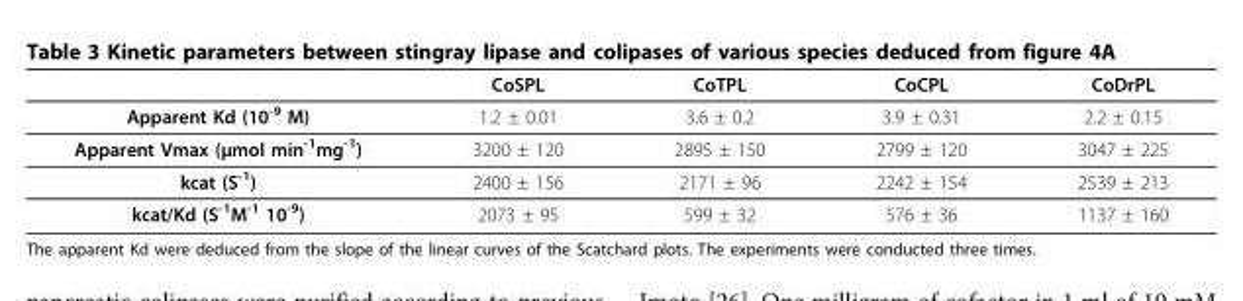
<table><thead><tr><td></td><td>CoSPL</td><td>CoTPL</td><td>CoCPL</td><td>CoDrPL</td></tr></thead><tbody><tr><td>Apparent Kd (10<sup>-9</sup> M)</td><td>1.2 ± 0.01</td><td>3.6 ± 0.2</td><td>3.9 ± 0.31</td><td>2.2 ± 0.15</td></tr><tr><td>Apparent Vmax (μmol min<sup>-1</sup>mg<sup>-1</sup>)</td><td>3200 ± 120</td><td>2895 ± 150</td><td>2799 ± 120</td><td>3047 ± 225</td></tr><tr><td>kcat (S<sup>-1</sup>)</td><td>2400 ± 156</td><td>2171 ± 96</td><td>2242 ± 154</td><td>2539 ± 213</td></tr><tr><td>kcat/Kd (S<sup>-1</sup>M<sup>-1</sup> 10<sup>-9</sup>)</td><td>2073 ± 95</td><td>599 ± 32</td><td>576 ± 36</td><td>1137 ± 160</td></tr></tbody></table>